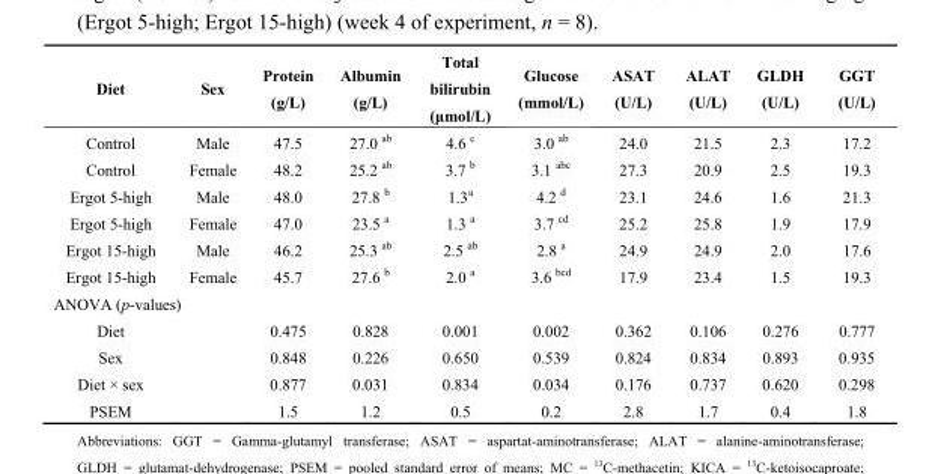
<table><thead><tr><td>Diet</td><td>Sex</td><td>Protein (g/L)</td><td>Albumin (g/L)</td><td>Total bilirubin (μmol/L)</td><td>Glucose (mmol/L)</td><td>ASAT (U/L)</td><td>ALAT (U/L)</td><td>GLDH (U/L)</td><td>GGT (U/L)</td></tr></thead><tbody><tr><td>Control</td><td>Male</td><td>47.5</td><td>27.0 <sup>ab</sup></td><td>4.6 <sup>c</sup></td><td>3.0 <sup>ab</sup></td><td>24.0</td><td>21.5</td><td>2.3</td><td>17.2</td></tr><tr><td>Control</td><td>Female</td><td>48.2</td><td>25.2 <sup>ab</sup></td><td>3.7 <sup>b</sup></td><td>3.1 <sup>abc</sup></td><td>27.3</td><td>20.9</td><td>2.5</td><td>19.3</td></tr><tr><td>Ergot 5-high</td><td>Male</td><td>48.0</td><td>27.8 <sup>b</sup></td><td>1.3<sup>a</sup></td><td>4.2 <sup>d</sup></td><td>23.1</td><td>24.6</td><td>1.6</td><td>21.3</td></tr><tr><td>Ergot 5-high</td><td>Female</td><td>47.0</td><td>23.5 <sup>a</sup></td><td>1.3 <sup>a</sup></td><td>3.7 <sup>cd</sup></td><td>25.2</td><td>25.8</td><td>1.9</td><td>17.9</td></tr><tr><td>Ergot 15-high</td><td>Male</td><td>46.2</td><td>25.3 <sup>ab</sup></td><td>2.5 <sup>ab</sup></td><td>2.8 <sup>a</sup></td><td>24.9</td><td>24.9</td><td>2.0</td><td>17.6</td></tr><tr><td>Ergot 15-high</td><td>Female</td><td>45.7</td><td>27.6 <sup>b</sup></td><td>2.0 <sup>a</sup></td><td>3.6 <sup>bcd</sup></td><td>17.9</td><td>23.4</td><td>1.5</td><td>19.3</td></tr><tr><td colspan="10">ANOVA (p-values)</td></tr><tr><td>Diet</td><td></td><td>0.475</td><td>0.828</td><td>0.001</td><td>0.002</td><td>0.362</td><td>0.106</td><td>0.276</td><td>0.777</td></tr><tr><td>Sex</td><td></td><td>0.848</td><td>0.226</td><td>0.650</td><td>0.539</td><td>0.824</td><td>0.834</td><td>0.893</td><td>0.935</td></tr><tr><td>Diet × sex</td><td></td><td>0.877</td><td>0.031</td><td>0.834</td><td>0.034</td><td>0.176</td><td>0.737</td><td>0.620</td><td>0.298</td></tr><tr><td>PSEM</td><td></td><td>1.5</td><td>1.2</td><td>0.5</td><td>0.2</td><td>2.8</td><td>1.7</td><td>0.4</td><td>1.8</td></tr></tbody></table>